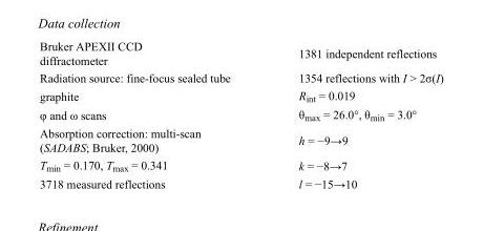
<table><tbody><tr><td>Bruker APEXII CCD diffractometer</td><td>1381 independent reflections</td></tr><tr><td>Radiation source: fine-focus sealed tube</td><td>1354 reflections with I &gt; 2σ(I)</td></tr><tr><td>graphite</td><td>R<sub>int</sub> = 0.019</td></tr><tr><td>φ and ω scans</td><td>θ<sub>max</sub> = 26.0°, θ<sub>min</sub> = 3.0°</td></tr><tr><td>Absorption correction: multi-scan (SADABS; Bruker, 2000)</td><td>h = −9→9</td></tr><tr><td>T<sub>min</sub> = 0.170, T<sub>max</sub> = 0.341</td><td>k = −8→7</td></tr><tr><td>3718 measured reflections</td><td>l = −15→10</td></tr></tbody></table>